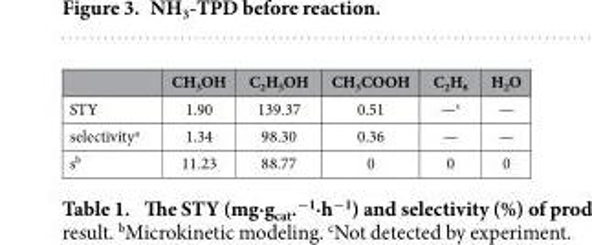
<table><thead><tr><td></td><td>CH<sub>3</sub>OH</td><td>C<sub>2</sub>H<sub>5</sub>OH</td><td>CH<sub>3</sub>COOH</td><td>C<sub>2</sub>H<sub>6</sub></td><td>H<sub>2</sub>O</td></tr></thead><tbody><tr><td>STY</td><td>1.90</td><td>139.37</td><td>0.51</td><td>—c</td><td>—</td></tr><tr><td>selectivity<sup>a</sup></td><td>1.34</td><td>98.30</td><td>0.36</td><td>—</td><td>—</td></tr><tr><td>s<sup>b</sup></td><td>11.23</td><td>88.77</td><td>0</td><td>0</td><td>0</td></tr></tbody></table>